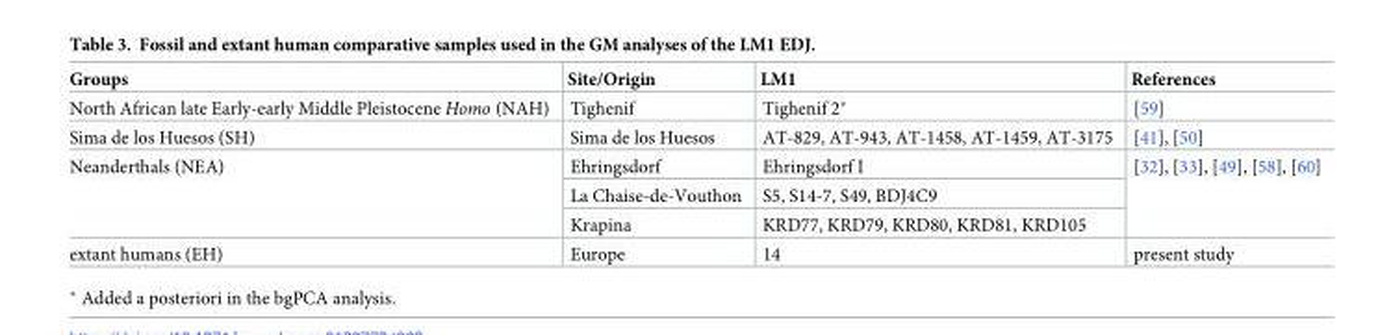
<table><thead><tr><td>Groups</td><td>Site/Origin</td><td>LM1</td><td>References</td></tr></thead><tbody><tr><td>North African late Early-early Middle Pleistocene Homo (NAH)</td><td>Tighenif</td><td>Tighenif 2*</td><td>[59]</td></tr><tr><td>Sima de los Huesos (SH)</td><td>Sima de los Huesos</td><td>AT-829, AT-943, AT-1458, AT-1459, AT-3175</td><td>[41], [50]</td></tr><tr><td rowspan="3">Neanderthals (NEA)</td><td>Ehringsdorf</td><td>Ehringsdorf I</td><td rowspan="3">[32], [33], [49], [58], [60]</td></tr><tr><td>La Chaise-de-Vouthon</td><td>S5, S14-7, S49, BDJ4C9</td></tr><tr><td>Krapina</td><td>KRD77, KRD79, KRD80, KRD81, KRD105</td></tr><tr><td>extant humans (EH)</td><td>Europe</td><td>14</td><td>present study</td></tr></tbody></table>